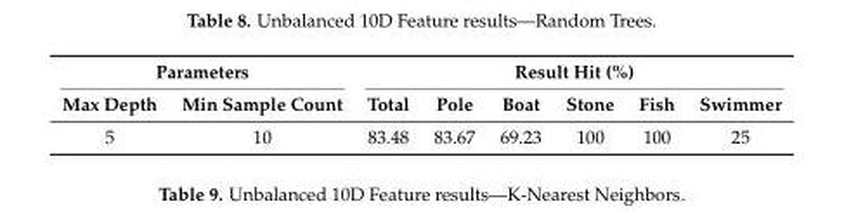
<table><thead><tr><td colspan="2">Parameters</td><td colspan="6">Result Hit (%)</td></tr><tr><td>Max Depth</td><td>Min Sample Count</td><td>Total</td><td>Pole</td><td>Boat</td><td>Stone</td><td>Fish</td><td>Swimmer</td></tr></thead><tbody><tr><td>5</td><td>10</td><td>83.48</td><td>83.67</td><td>69.23</td><td>100</td><td>100</td><td>25</td></tr></tbody></table>